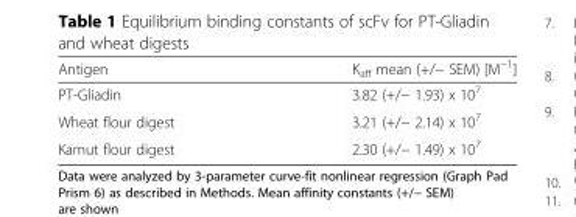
<table><thead><tr><td>Antigen</td><td>K<sub>aff</sub> mean (+/− SEM) [M<sup>−1</sup>]</td></tr></thead><tbody><tr><td>PT-Gliadin</td><td>3.82 (+/− 1.93) x 10<sup>7</sup></td></tr><tr><td>Wheat flour digest</td><td>3.21 (+/− 2.14) x 10<sup>7</sup></td></tr><tr><td>Kamut flour digest</td><td>2.30 (+/− 1.49) x 10<sup>7</sup></td></tr></tbody></table>